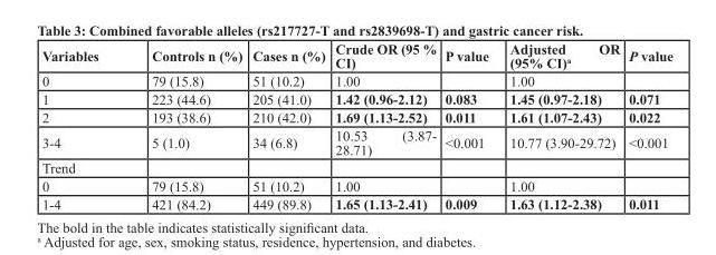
<table><thead><tr><td>Variables</td><td>Controls n (%)</td><td>Cases n (%)</td><td>Crude OR (95 % CI)</td><td>P value</td><td>Adjusted OR (95% CI)<sup>a</sup></td><td>P value</td></tr></thead><tbody><tr><td>0</td><td>79 (15.8)</td><td>51 (10.2)</td><td>1.00</td><td></td><td>1.00</td><td></td></tr><tr><td>1</td><td>223 (44.6)</td><td>205 (41.0)</td><td>1.42 (0.96-2.12)</td><td>0.083</td><td>1.45 (0.97-2.18)</td><td>0.071</td></tr><tr><td>2</td><td>193 (38.6)</td><td>210 (42.0)</td><td>1.69 (1.13-2.52)</td><td>0.011</td><td>1.61 (1.07-2.43)</td><td>0.022</td></tr><tr><td>3-4</td><td>5 (1.0)</td><td>34 (6.8)</td><td>10.53 (3.87- 28.71)</td><td>&lt;0.001</td><td>10.77 (3.90-29.72)</td><td>&lt;0.001</td></tr><tr><td colspan="7">Trend</td></tr><tr><td>0</td><td>79 (15.8)</td><td>51 (10.2)</td><td>1.00</td><td></td><td>1.00</td><td></td></tr><tr><td>1-4</td><td>421 (84.2)</td><td>449 (89.8)</td><td>1.65 (1.13-2.41)</td><td>0.009</td><td>1.63 (1.12-2.38)</td><td>0.011</td></tr></tbody></table>